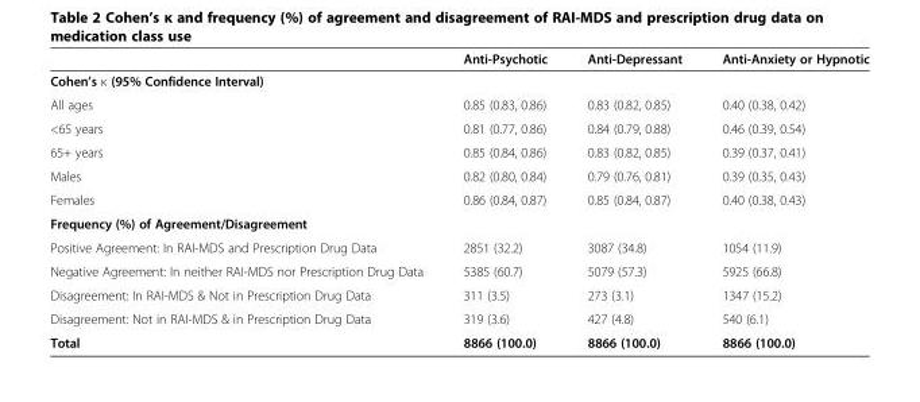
<table><thead><tr><td></td><td>Anti-Psychotic</td><td>Anti-Depressant</td><td>Anti-Anxiety or Hypnotic</td></tr></thead><tbody><tr><td colspan="4">Cohen’s κ (95% Confidence Interval)</td></tr><tr><td>All ages</td><td>0.85 (0.83, 0.86)</td><td>0.83 (0.82, 0.85)</td><td>0.40 (0.38, 0.42)</td></tr><tr><td>&lt;65 years</td><td>0.81 (0.77, 0.86)</td><td>0.84 (0.79, 0.88)</td><td>0.46 (0.39, 0.54)</td></tr><tr><td>65+ years</td><td>0.85 (0.84, 0.86)</td><td>0.83 (0.82, 0.85)</td><td>0.39 (0.37, 0.41)</td></tr><tr><td>Males</td><td>0.82 (0.80, 0.84)</td><td>0.79 (0.76, 0.81)</td><td>0.39 (0.35, 0.43)</td></tr><tr><td>Females</td><td>0.86 (0.84, 0.87)</td><td>0.85 (0.84, 0.87)</td><td>0.40 (0.38, 0.43)</td></tr><tr><td colspan="4">Frequency (%) of Agreement/Disagreement</td></tr><tr><td>Positive Agreement: In RAI-MDS and Prescription Drug Data</td><td>2851 (32.2)</td><td>3087 (34.8)</td><td>1054 (11.9)</td></tr><tr><td>Negative Agreement: In neither RAI-MDS nor Prescription Drug Data</td><td>5385 (60.7)</td><td>5079 (57.3)</td><td>5925 (66.8)</td></tr><tr><td>Disagreement: In RAI-MDS &amp; Not in Prescription Drug Data</td><td>311 (3.5)</td><td>273 (3.1)</td><td>1347 (15.2)</td></tr><tr><td>Disagreement: Not in RAI-MDS &amp; in Prescription Drug Data</td><td>319 (3.6)</td><td>427 (4.8)</td><td>540 (6.1)</td></tr><tr><td>Total</td><td>8866 (100.0)</td><td>8866 (100.0)</td><td>8866 (100.0)</td></tr></tbody></table>